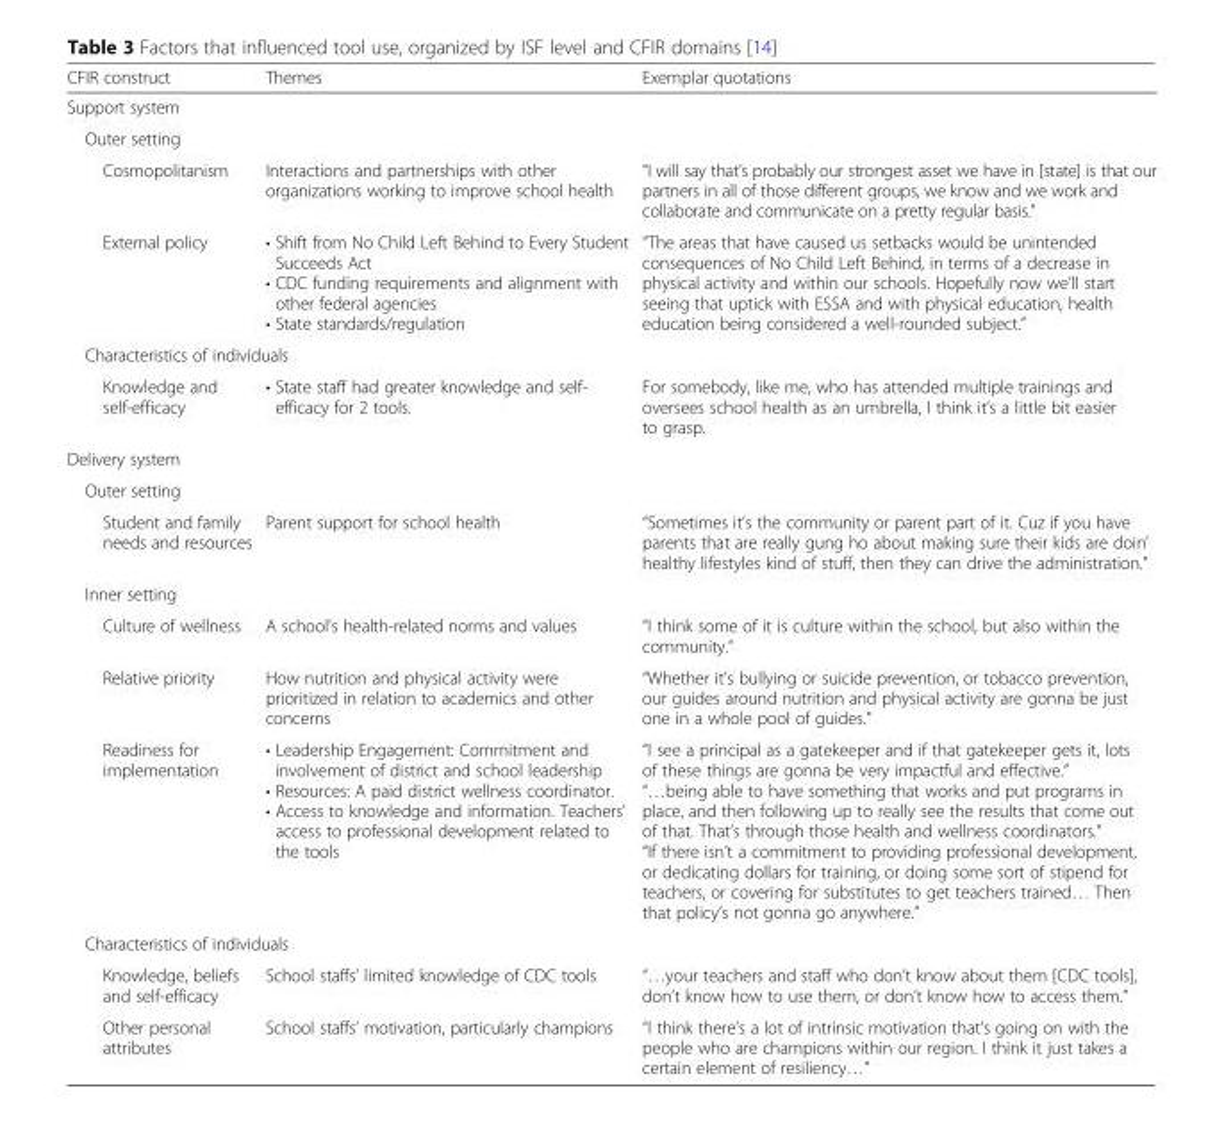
<table><thead><tr><td>CFIR construct</td><td>Themes</td><td>Exemplar quotations</td></tr></thead><tbody><tr><td colspan="3">Support system</td></tr><tr><td colspan="3">Outer setting</td></tr><tr><td>Cosmopolitanism</td><td>Interactions and partnerships with other organizations working to improve school health</td><td>“I will say that’s probably our strongest asset we have in [state] is that our partners in all of those different groups, we know and we work and collaborate and communicate on a pretty regular basis.”</td></tr><tr><td>External policy</td><td>• Shift from No Child Left Behind to Every Student Succeeds Act • CDC funding requirements and alignment with other federal agencies • State standards/regulation</td><td>“The areas that have caused us setbacks would be unintended consequences of No Child Left Behind, in terms of a decrease in physical activity and within our schools. Hopefully now we’ll start seeing that uptick with ESSA and with physical education, health education being considered a well-rounded subject.”</td></tr><tr><td colspan="3">Characteristics of individuals</td></tr><tr><td>Knowledge and self-efficacy</td><td>• State staff had greater knowledge and self- efficacy for 2 tools.</td><td>For somebody, like me, who has attended multiple trainings and oversees school health as an umbrella, I think it’s a little bit easier to grasp.</td></tr><tr><td colspan="3">Delivery system</td></tr><tr><td colspan="3">Outer setting</td></tr><tr><td>Student and family needs and resources</td><td>Parent support for school health</td><td>“Sometimes it’s the community or parent part of it. Cuz if you have parents that are really gung ho about making sure their kids are doin’ healthy lifestyles kind of stuff, then they can drive the administration.”</td></tr><tr><td colspan="3">Inner setting</td></tr><tr><td>Culture of wellness</td><td>A school’s health-related norms and values</td><td>“I think some of it is culture within the school, but also within the community.”</td></tr><tr><td>Relative priority</td><td>How nutrition and physical activity were prioritized in relation to academics and other concerns</td><td>“Whether it’s bullying or suicide prevention, or tobacco prevention, our guides around nutrition and physical activity are gonna be just one in a whole pool of guides.”</td></tr><tr><td>Readiness for implementation</td><td>• Leadership Engagement: Commitment and involvement of district and school leadership • Resources: A paid district wellness coordinator. • Access to knowledge and information. Teachers’ access to professional development related to the tools</td><td>“I see a principal as a gatekeeper and if that gatekeeper gets it, lots of these things are gonna be very impactful and effective.” “…being able to have something that works and put programs in place, and then following up to really see the results that come out of that. That’s through those health and wellness coordinators.” “If there isn’t a commitment to providing professional development, or dedicating dollars for training, or doing some sort of stipend for teachers, or covering for substitutes to get teachers trained… Then that policy’s not gonna go anywhere.”</td></tr><tr><td colspan="3">Characteristics of individuals</td></tr><tr><td>Knowledge, beliefs and self-efficacy</td><td>School staffs’ limited knowledge of CDC tools</td><td>“…your teachers and staff who don’t know about them [CDC tools], don’t know how to use them, or don’t know how to access them.”</td></tr><tr><td>Other personal attributes</td><td>School staffs’ motivation, particularly champions</td><td>“I think there’s a lot of intrinsic motivation that’s going on with the people who are champions within our region. I think it just takes a certain element of resiliency…”</td></tr></tbody></table>